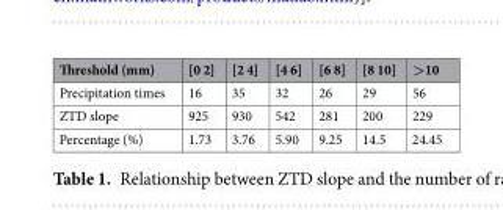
<table><thead><tr><td>Threshold (mm)</td><td>[0 2]</td><td>[2 4]</td><td>[4 6]</td><td>[6 8]</td><td>[8 10]</td><td>&gt;10</td></tr></thead><tbody><tr><td>Precipitation times</td><td>16</td><td>35</td><td>32</td><td>26</td><td>29</td><td>56</td></tr><tr><td>ZTD slope</td><td>925</td><td>930</td><td>542</td><td>281</td><td>200</td><td>229</td></tr><tr><td>Percentage (%)</td><td>1.73</td><td>3.76</td><td>5.90</td><td>9.25</td><td>14.5</td><td>24.45</td></tr></tbody></table>